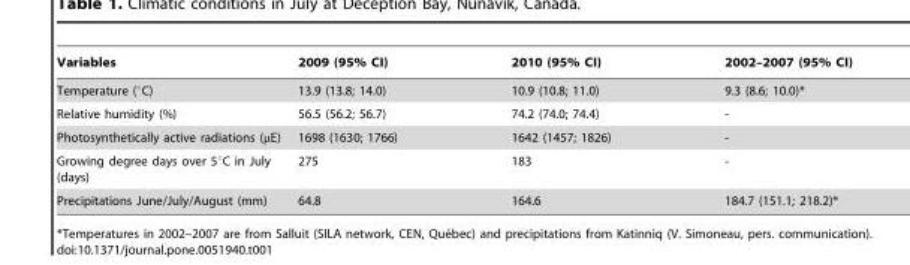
<table><thead><tr><td>Variables</td><td>2009 (95% CI)</td><td>2010 (95% CI)</td><td>2002–2007 (95% CI)</td></tr></thead><tbody><tr><td>Temperature (°C)</td><td>13.9 (13.8; 14.0)</td><td>10.9 (10.8; 11.0)</td><td>9.3 (8.6; 10.0)*</td></tr><tr><td>Relative humidity (%)</td><td>56.5 (56.2; 56.7)</td><td>74.2 (74.0; 74.4)</td><td>-</td></tr><tr><td>Photosynthetically active radiations (μE)</td><td>1698 (1630; 1766)</td><td>1642 (1457; 1826)</td><td>-</td></tr><tr><td>Growing degree days over 5°C in July (days)</td><td>275</td><td>183</td><td>-</td></tr><tr><td>Precipitations June/July/August (mm)</td><td>64.8</td><td>164.6</td><td>184.7 (151.1; 218.2)*</td></tr></tbody></table>